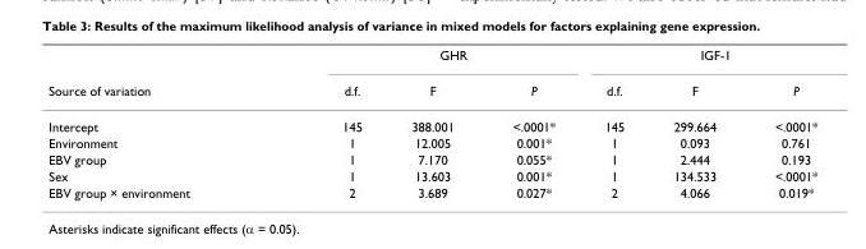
<table><thead><tr><td rowspan="2">Source of variation</td><td colspan="3">GHR</td><td colspan="3">IGF-1</td></tr><tr><td>d.f.</td><td>F</td><td>P</td><td>d.f.</td><td>F</td><td>P</td></tr></thead><tbody><tr><td>Intercept</td><td>145</td><td>388.001</td><td>&lt;.0001*</td><td>145</td><td>299.664</td><td>&lt;.0001*</td></tr><tr><td>Environment</td><td>1</td><td>12.005</td><td>0.001*</td><td>1</td><td>0.093</td><td>0.761</td></tr><tr><td>EBV group</td><td>1</td><td>7.170</td><td>0.055*</td><td>1</td><td>2.444</td><td>0.193</td></tr><tr><td>Sex</td><td>1</td><td>13.603</td><td>0.001*</td><td>1</td><td>134.533</td><td>&lt;.0001*</td></tr><tr><td>EBV group × environment</td><td>2</td><td>3.689</td><td>0.027*</td><td>2</td><td>4.066</td><td>0.019*</td></tr></tbody></table>